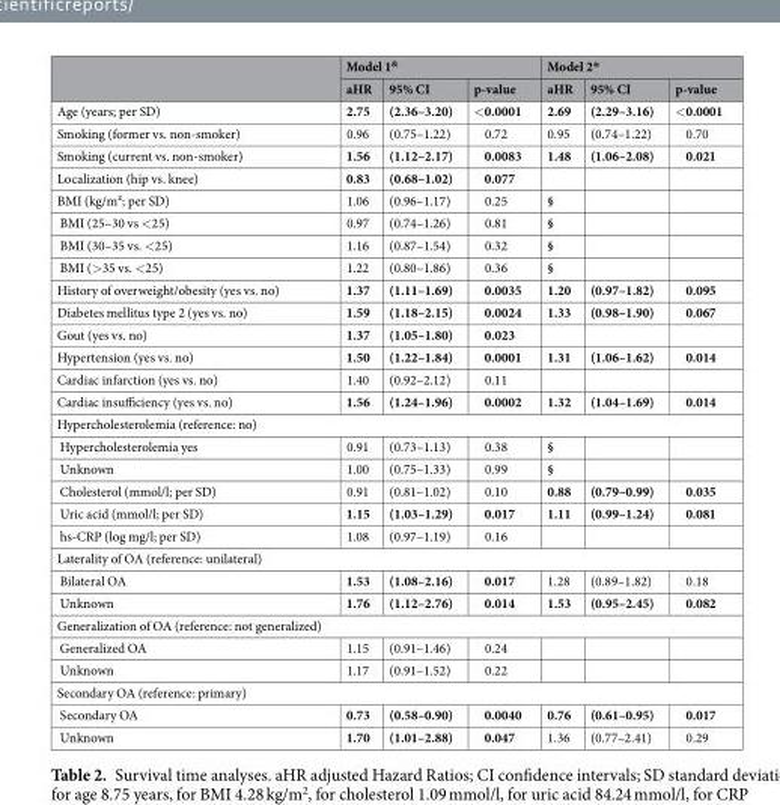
<table><thead><tr><td rowspan="2"></td><td colspan="3">Model 1<sup>&amp;</sup></td><td colspan="3">Model 2*</td></tr><tr><td>aHR</td><td>95% CI</td><td>p-value</td><td>aHR</td><td>95% CI</td><td>p-value</td></tr></thead><tbody><tr><td>Age (years; per SD)</td><td>2.75</td><td>(2.36–3.20)</td><td>&lt;0.0001</td><td>2.69</td><td>(2.29–3.16)</td><td>&lt;0.0001</td></tr><tr><td>Smoking (former vs. non-smoker)</td><td>0.96</td><td>(0.75–1.22)</td><td>0.72</td><td>0.95</td><td>(0.74–1.22)</td><td>0.70</td></tr><tr><td>Smoking (current vs. non-smoker)</td><td>1.56</td><td>(1.12–2.17)</td><td>0.0083</td><td>1.48</td><td>(1.06–2.08)</td><td>0.021</td></tr><tr><td>Localization (hip vs. knee)</td><td>0.83</td><td>(0.68–1.02)</td><td>0.077</td><td></td><td></td><td></td></tr><tr><td>BMI (kg/m²; per SD)</td><td>1.06</td><td>(0.96–1.17)</td><td>0.25</td><td>§</td><td></td><td></td></tr><tr><td>BMI (25–30 vs &lt;25)</td><td>0.97</td><td>(0.74–1.26)</td><td>0.81</td><td>§</td><td></td><td></td></tr><tr><td>BMI (30–35 vs. &lt;25)</td><td>1.16</td><td>(0.87–1.54)</td><td>0.32</td><td>§</td><td></td><td></td></tr><tr><td>BMI (&gt;35 vs. &lt;25)</td><td>1.22</td><td>(0.80–1.86)</td><td>0.36</td><td>§</td><td></td><td></td></tr><tr><td>History of overweight/obesity (yes vs. no)</td><td>1.37</td><td>(1.11–1.69)</td><td>0.0035</td><td>1.20</td><td>(0.97–1.82)</td><td>0.095</td></tr><tr><td>Diabetes mellitus type 2 (yes vs. no)</td><td>1.59</td><td>(1.18–2.15)</td><td>0.0024</td><td>1.33</td><td>(0.98–1.90)</td><td>0.067</td></tr><tr><td>Gout (yes vs. no)</td><td>1.37</td><td>(1.05–1.80)</td><td>0.023</td><td></td><td></td><td></td></tr><tr><td>Hypertension (yes vs. no)</td><td>1.50</td><td>(1.22–1.84)</td><td>0.0001</td><td>1.31</td><td>(1.06–1.62)</td><td>0.014</td></tr><tr><td>Cardiac infarction (yes vs. no)</td><td>1.40</td><td>(0.92–2.12)</td><td>0.11</td><td></td><td></td><td></td></tr><tr><td>Cardiac insufficiency (yes vs. no)</td><td>1.56</td><td>(1.24–1.96)</td><td>0.0002</td><td>1.32</td><td>(1.04–1.69)</td><td>0.014</td></tr><tr><td colspan="7">Hypercholesterolemia (reference: no)</td></tr><tr><td>Hypercholesterolemia yes</td><td>0.91</td><td>(0.73–1.13)</td><td>0.38</td><td>§</td><td></td><td></td></tr><tr><td>Unknown</td><td>1.00</td><td>(0.75–1.33)</td><td>0.99</td><td>§</td><td></td><td></td></tr><tr><td>Cholesterol (mmol/l; per SD)</td><td>0.91</td><td>(0.81–1.02)</td><td>0.10</td><td>0.88</td><td>(0.79–0.99)</td><td>0.035</td></tr><tr><td>Uric acid (mmol/l; per SD)</td><td>1.15</td><td>(1.03–1.29)</td><td>0.017</td><td>1.11</td><td>(0.99–1.24)</td><td>0.081</td></tr><tr><td>hs-CRP (log mg/l; per SD)</td><td>1.08</td><td>(0.97–1.19)</td><td>0.16</td><td></td><td></td><td></td></tr><tr><td colspan="7">Laterality of OA (reference: unilateral)</td></tr><tr><td>Bilateral OA</td><td>1.53</td><td>(1.08–2.16)</td><td>0.017</td><td>1.28</td><td>(0.89–1.82)</td><td>0.18</td></tr><tr><td>Unknown</td><td>1.76</td><td>(1.12–2.76)</td><td>0.014</td><td>1.53</td><td>(0.95–2.45)</td><td>0.082</td></tr><tr><td colspan="7">Generalization of OA (reference: not generalized)</td></tr><tr><td>Generalized OA</td><td>1.15</td><td>(0.91–1.46)</td><td>0.24</td><td></td><td></td><td></td></tr><tr><td>Unknown</td><td>1.17</td><td>(0.91–1.52)</td><td>0.22</td><td></td><td></td><td></td></tr><tr><td colspan="7">Secondary OA (reference: primary)</td></tr><tr><td>Secondary OA</td><td>0.73</td><td>(0.58–0.90)</td><td>0.0040</td><td>0.76</td><td>(0.61–0.95)</td><td>0.017</td></tr><tr><td>Unknown</td><td>1.70</td><td>(1.01–2.88)</td><td>0.047</td><td>1.36</td><td>(0.77–2.41)</td><td>0.29</td></tr></tbody></table>